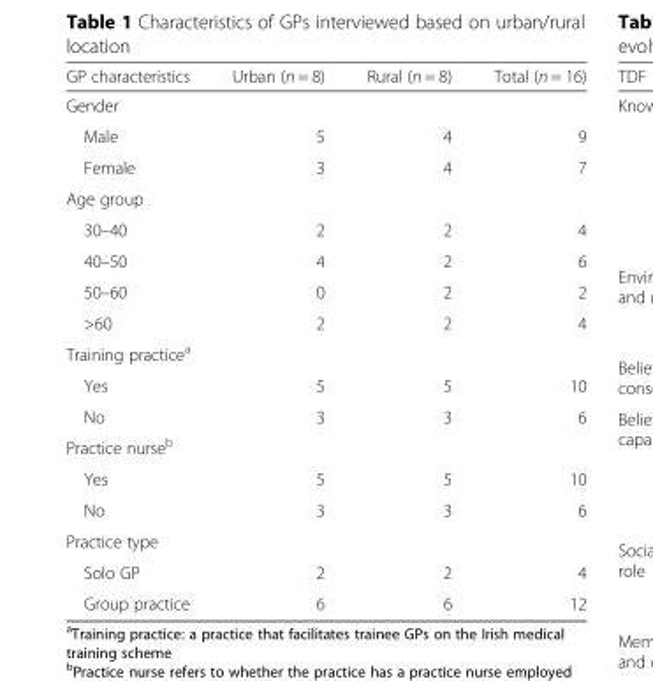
<table><thead><tr><td>GP characteristics</td><td>Urban (n = 8)</td><td>Rural (n = 8)</td><td>Total (n = 16)</td></tr></thead><tbody><tr><td colspan="4">Gender</td></tr><tr><td>Male</td><td>5</td><td>4</td><td>9</td></tr><tr><td>Female</td><td>3</td><td>4</td><td>7</td></tr><tr><td colspan="4">Age group</td></tr><tr><td>30–40</td><td>2</td><td>2</td><td>4</td></tr><tr><td>40–50</td><td>4</td><td>2</td><td>6</td></tr><tr><td>50–60</td><td>0</td><td>2</td><td>2</td></tr><tr><td>&gt;60</td><td>2</td><td>2</td><td>4</td></tr><tr><td colspan="4">Training practice<sup>a</sup></td></tr><tr><td>Yes</td><td>5</td><td>5</td><td>10</td></tr><tr><td>No</td><td>3</td><td>3</td><td>6</td></tr><tr><td colspan="4">Practice nurse<sup>b</sup></td></tr><tr><td>Yes</td><td>5</td><td>5</td><td>10</td></tr><tr><td>No</td><td>3</td><td>3</td><td>6</td></tr><tr><td colspan="4">Practice type</td></tr><tr><td>Solo GP</td><td>2</td><td>2</td><td>4</td></tr><tr><td>Group practice</td><td>6</td><td>6</td><td>12</td></tr></tbody></table>